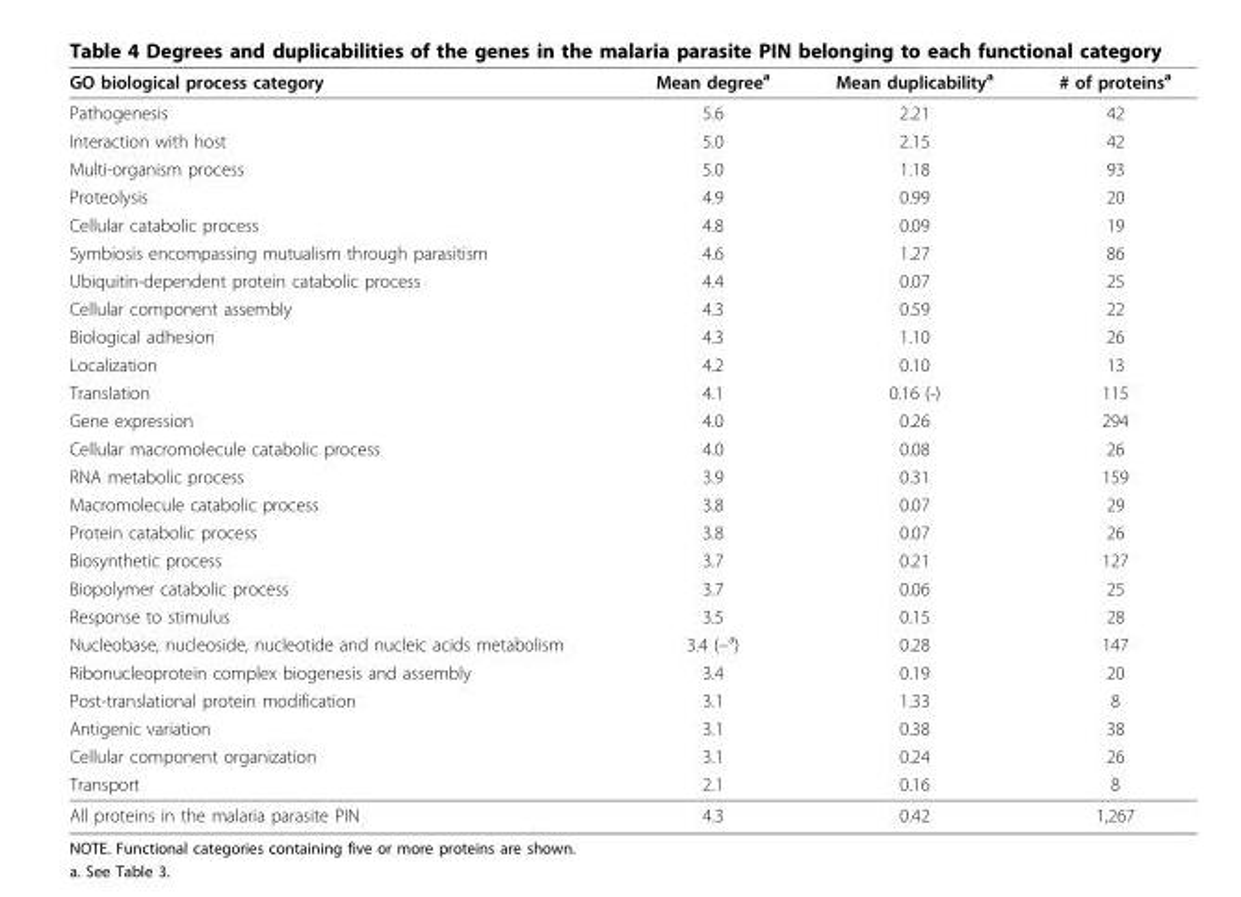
<table><thead><tr><td>GO biological process category</td><td>Mean degree<sup>a</sup></td><td>Mean duplicability<sup>a</sup></td><td># of proteins<sup>a</sup></td></tr></thead><tbody><tr><td>Pathogenesis</td><td>5.6</td><td>2.21</td><td>42</td></tr><tr><td>Interaction with host</td><td>5.0</td><td>2.15</td><td>42</td></tr><tr><td>Multi-organism process</td><td>5.0</td><td>1.18</td><td>93</td></tr><tr><td>Proteolysis</td><td>4.9</td><td>0.99</td><td>20</td></tr><tr><td>Cellular catabolic process</td><td>4.8</td><td>0.09</td><td>19</td></tr><tr><td>Symbiosis encompassing mutualism through parasitism</td><td>4.6</td><td>1.27</td><td>86</td></tr><tr><td>Ubiquitin-dependent protein catabolic process</td><td>4.4</td><td>0.07</td><td>25</td></tr><tr><td>Cellular component assembly</td><td>4.3</td><td>0.59</td><td>22</td></tr><tr><td>Biological adhesion</td><td>4.3</td><td>1.10</td><td>26</td></tr><tr><td>Localization</td><td>4.2</td><td>0.10</td><td>13</td></tr><tr><td>Translation</td><td>4.1</td><td>0.16 (-)</td><td>115</td></tr><tr><td>Gene expression</td><td>4.0</td><td>0.26</td><td>294</td></tr><tr><td>Cellular macromolecule catabolic process</td><td>4.0</td><td>0.08</td><td>26</td></tr><tr><td>RNA metabolic process</td><td>3.9</td><td>0.31</td><td>159</td></tr><tr><td>Macromolecule catabolic process</td><td>3.8</td><td>0.07</td><td>29</td></tr><tr><td>Protein catabolic process</td><td>3.8</td><td>0.07</td><td>26</td></tr><tr><td>Biosynthetic process</td><td>3.7</td><td>0.21</td><td>127</td></tr><tr><td>Biopolymer catabolic process</td><td>3.7</td><td>0.06</td><td>25</td></tr><tr><td>Response to stimulus</td><td>3.5</td><td>0.15</td><td>28</td></tr><tr><td>Nucleobase, nucleoside, nucleotide and nucleic acids metabolism</td><td>3.4 (–a)</td><td>0.28</td><td>147</td></tr><tr><td>Ribonucleoprotein complex biogenesis and assembly</td><td>3.4</td><td>0.19</td><td>20</td></tr><tr><td>Post-translational protein modification</td><td>3.1</td><td>1.33</td><td>8</td></tr><tr><td>Antigenic variation</td><td>3.1</td><td>0.38</td><td>38</td></tr><tr><td>Cellular component organization</td><td>3.1</td><td>0.24</td><td>26</td></tr><tr><td>Transport</td><td>2.1</td><td>0.16</td><td>8</td></tr><tr><td>All proteins in the malaria parasite PIN</td><td>4.3</td><td>0.42</td><td>1,267</td></tr></tbody></table>